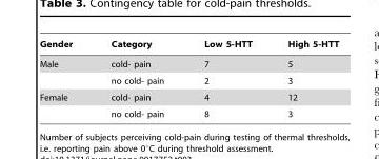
<table><thead><tr><td>Gender</td><td>Category</td><td>Low 5-HTT</td><td>High 5-HTT</td></tr></thead><tbody><tr><td rowspan="2">Male</td><td>cold- pain</td><td>7</td><td>5</td></tr><tr><td>no cold- pain</td><td>2</td><td>3</td></tr><tr><td rowspan="2">Female</td><td>cold- pain</td><td>4</td><td>12</td></tr><tr><td>no cold- pain</td><td>8</td><td>3</td></tr></tbody></table>